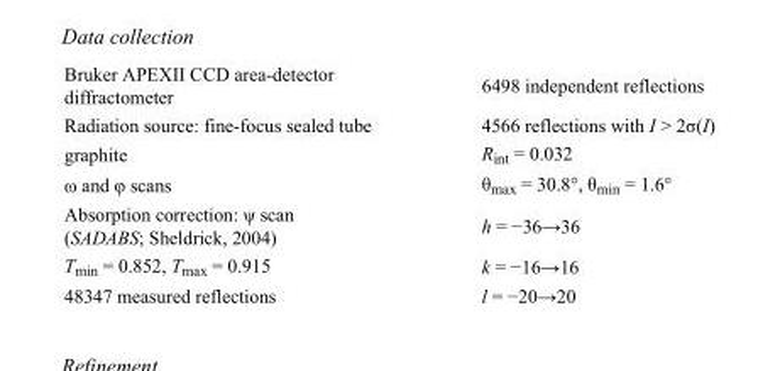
<table><tbody><tr><td>Bruker APEXII CCD area-detector diffractometer</td><td>6498 independent reflections</td></tr><tr><td>Radiation source: fine-focus sealed tube</td><td>4566 reflections with I &gt; 2σ(I)</td></tr><tr><td>graphite</td><td>R<sub>int</sub> = 0.032</td></tr><tr><td>ω and φ scans</td><td>θ<sub>max</sub> = 30.8°, θ<sub>min</sub> = 1.6°</td></tr><tr><td>Absorption correction: ψ scan (SADABS; Sheldrick, 2004)</td><td>h = −36→36</td></tr><tr><td>T<sub>min</sub> = 0.852, T<sub>max</sub> = 0.915</td><td>k = −16→16</td></tr><tr><td>48347 measured reflections</td><td>l = −20→20</td></tr></tbody></table>